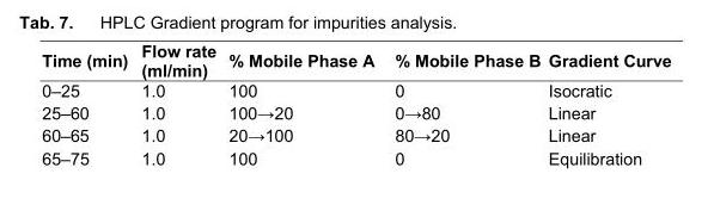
<table><thead><tr><td>Time (min)</td><td>Flow rate (ml/min)</td><td>% Mobile Phase A</td><td>% Mobile Phase B</td><td>Gradient Curve</td></tr></thead><tbody><tr><td>0–25</td><td>1.0</td><td>100</td><td>0</td><td>Isocratic</td></tr><tr><td>25–60</td><td>1.0</td><td>100→20</td><td>0→80</td><td>Linear</td></tr><tr><td>60–65</td><td>1.0</td><td>20→100</td><td>80→20</td><td>Linear</td></tr><tr><td>65–75</td><td>1.0</td><td>100</td><td>0</td><td>Equilibration</td></tr></tbody></table>